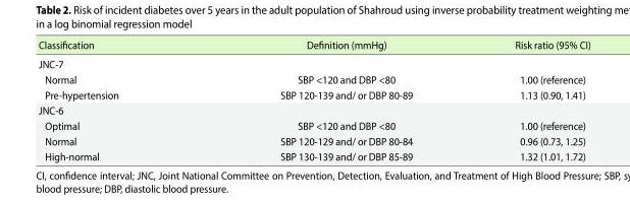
<table><thead><tr><td>Classification</td><td>Definition (mmHg)</td><td>Risk ratio (95% CI)</td></tr></thead><tbody><tr><td colspan="3">JNC-7</td></tr><tr><td>Normal</td><td>SBP &lt;120 and DBP &lt;80</td><td>1.00 (reference)</td></tr><tr><td>Pre-hypertension</td><td>SBP 120-139 and/ or DBP 80-89</td><td>1.13 (0.90, 1.41)</td></tr><tr><td colspan="3">JNC-6</td></tr><tr><td>Optimal</td><td>SBP &lt;120 and DBP &lt;80</td><td>1.00 (reference)</td></tr><tr><td>Normal</td><td>SBP 120-129 and/ or DBP 80-84</td><td>0.96 (0.73, 1.25)</td></tr><tr><td>High-normal</td><td>SBP 130-139 and/ or DBP 85-89</td><td>1.32 (1.01, 1.72)</td></tr></tbody></table>